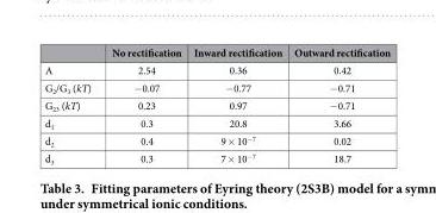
<table><thead><tr><td></td><td>No rectification</td><td>Inward rectification</td><td>Outward rectification</td></tr></thead><tbody><tr><td>A</td><td>2.54</td><td>0.36</td><td>0.42</td></tr><tr><td>G<sub>2</sub>/G<sub>3</sub> (kT)</td><td>− 0.07</td><td>− 0.77</td><td>− 0.71</td></tr><tr><td>G<sub>23</sub> (kT)</td><td>0.23</td><td>0.97</td><td>− 0.71</td></tr><tr><td>d<sub>1</sub></td><td>0.3</td><td>20.8</td><td>3.66</td></tr><tr><td>d<sub>2</sub></td><td>0.4</td><td>9 × 10<sup>−7</sup></td><td>0.02</td></tr><tr><td>d<sub>3</sub></td><td>0.3</td><td>7 × 10<sup>−7</sup></td><td>18.7</td></tr></tbody></table>